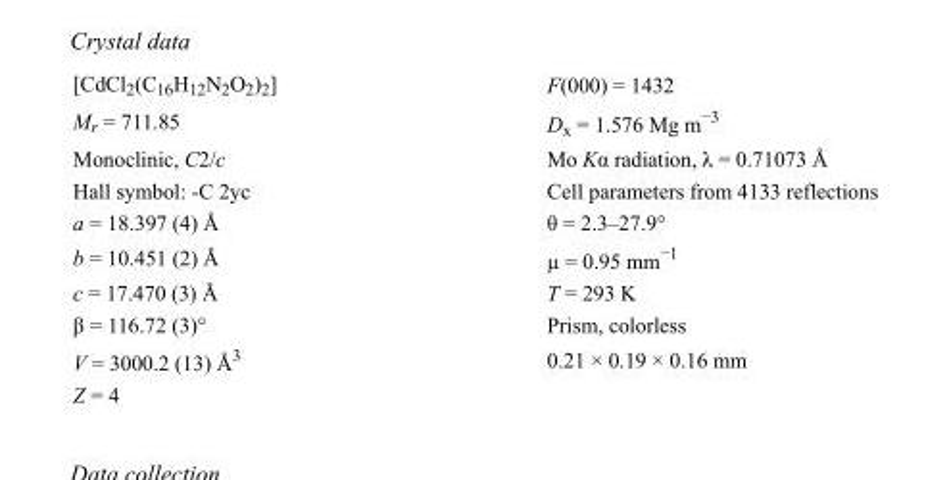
<table><tbody><tr><td>[CdCl<sub>2</sub>(C<sub>16</sub>H<sub>12</sub>N<sub>2</sub>O<sub>2</sub>)<sub>2</sub>]</td><td>F(000) = 1432</td></tr><tr><td>M<sub>r</sub> = 711.85</td><td>D<sub>x</sub> = 1.576 Mg m<sup>−3</sup></td></tr><tr><td>Monoclinic, C2/c</td><td>Mo Kα radiation, λ = 0.71073 Å</td></tr><tr><td>Hall symbol: -C 2yc</td><td>Cell parameters from 4133 reflections</td></tr><tr><td>a = 18.397 (4) Å</td><td>θ = 2.3–27.9°</td></tr><tr><td>b = 10.451 (2) Å</td><td>µ = 0.95 mm<sup>−1</sup></td></tr><tr><td>c = 17.470 (3) Å</td><td>T = 293 K</td></tr><tr><td>β = 116.72 (3)°</td><td>Prism, colorless</td></tr><tr><td>V = 3000.2 (13) Å<sup>3</sup></td><td>0.21 × 0.19 × 0.16 mm</td></tr><tr><td>Z = 4</td><td></td></tr></tbody></table>